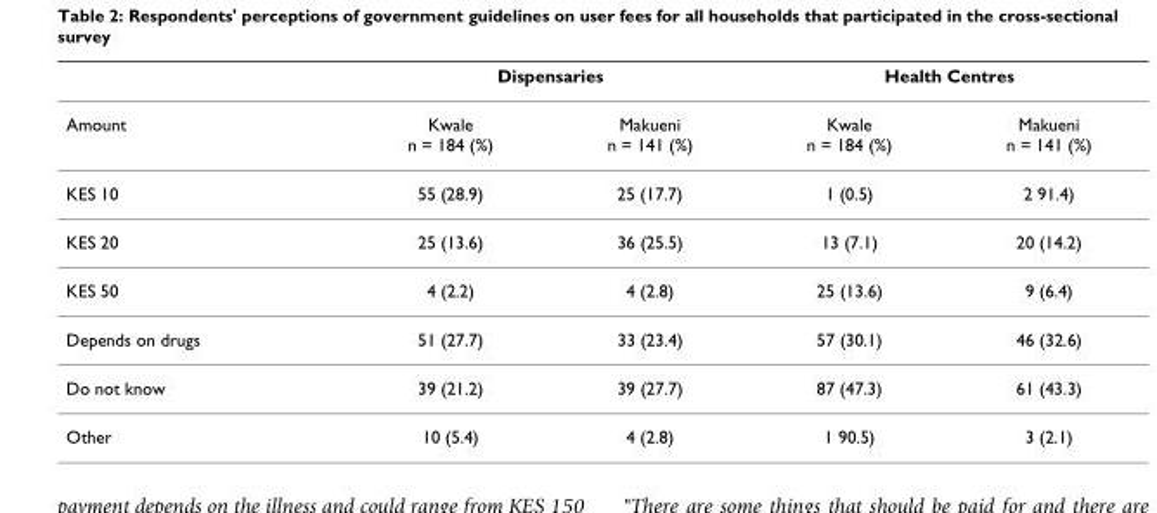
<table><thead><tr><td rowspan="2">Amount</td><td colspan="2">Dispensaries</td><td colspan="2">Health Centres</td></tr><tr><td>Kwale n = 184 (%)</td><td>Makueni n = 141 (%)</td><td>Kwale n = 184 (%)</td><td>Makueni n = 141 (%)</td></tr></thead><tbody><tr><td>KES 10</td><td>55 (28.9)</td><td>25 (17.7)</td><td>1 (0.5)</td><td>2 91.4)</td></tr><tr><td>KES 20</td><td>25 (13.6)</td><td>36 (25.5)</td><td>13 (7.1)</td><td>20 (14.2)</td></tr><tr><td>KES 50</td><td>4 (2.2)</td><td>4 (2.8)</td><td>25 (13.6)</td><td>9 (6.4)</td></tr><tr><td>Depends on drugs</td><td>51 (27.7)</td><td>33 (23.4)</td><td>57 (30.1)</td><td>46 (32.6)</td></tr><tr><td>Do not know</td><td>39 (21.2)</td><td>39 (27.7)</td><td>87 (47.3)</td><td>61 (43.3)</td></tr><tr><td>Other</td><td>10 (5.4)</td><td>4 (2.8)</td><td>1 90.5)</td><td>3 (2.1)</td></tr></tbody></table>